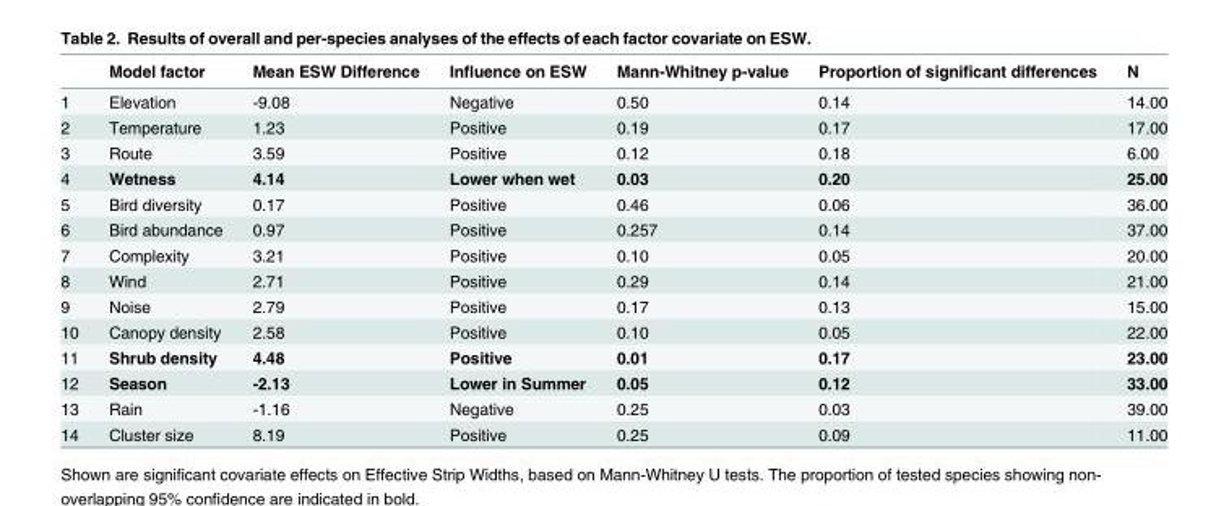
<table><thead><tr><td></td><td>Model factor</td><td>Mean ESW Difference</td><td>Influence on ESW</td><td>Mann-Whitney p-value</td><td>Proportion of significant differences</td><td>N</td></tr></thead><tbody><tr><td>1</td><td>Elevation</td><td>-9.08</td><td>Negative</td><td>0.50</td><td>0.14</td><td>14.00</td></tr><tr><td>2</td><td>Temperature</td><td>1.23</td><td>Positive</td><td>0.19</td><td>0.17</td><td>17.00</td></tr><tr><td>3</td><td>Route</td><td>3.59</td><td>Positive</td><td>0.12</td><td>0.18</td><td>6.00</td></tr><tr><td>4</td><td>Wetness</td><td>4.14</td><td>Lower when wet</td><td>0.03</td><td>0.20</td><td>25.00</td></tr><tr><td>5</td><td>Bird diversity</td><td>0.17</td><td>Positive</td><td>0.46</td><td>0.06</td><td>36.00</td></tr><tr><td>6</td><td>Bird abundance</td><td>0.97</td><td>Positive</td><td>0.257</td><td>0.14</td><td>37.00</td></tr><tr><td>7</td><td>Complexity</td><td>3.21</td><td>Positive</td><td>0.10</td><td>0.05</td><td>20.00</td></tr><tr><td>8</td><td>Wind</td><td>2.71</td><td>Positive</td><td>0.29</td><td>0.14</td><td>21.00</td></tr><tr><td>9</td><td>Noise</td><td>2.79</td><td>Positive</td><td>0.17</td><td>0.13</td><td>15.00</td></tr><tr><td>10</td><td>Canopy density</td><td>2.58</td><td>Positive</td><td>0.10</td><td>0.05</td><td>22.00</td></tr><tr><td>11</td><td>Shrub density</td><td>4.48</td><td>Positive</td><td>0.01</td><td>0.17</td><td>23.00</td></tr><tr><td>12</td><td>Season</td><td>-2.13</td><td>Lower in Summer</td><td>0.05</td><td>0.12</td><td>33.00</td></tr><tr><td>13</td><td>Rain</td><td>-1.16</td><td>Negative</td><td>0.25</td><td>0.03</td><td>39.00</td></tr><tr><td>14</td><td>Cluster size</td><td>8.19</td><td>Positive</td><td>0.25</td><td>0.09</td><td>11.00</td></tr></tbody></table>